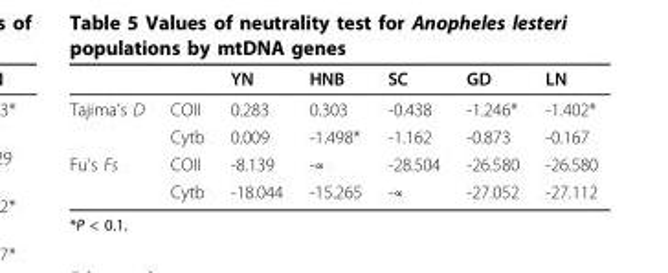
<table><thead><tr><td></td><td></td><td>YN</td><td>HNB</td><td>SC</td><td>GD</td><td>LN</td></tr></thead><tbody><tr><td rowspan="2">Tajima’s D</td><td>COII</td><td>0.283</td><td>0.303</td><td>-0.438</td><td>-1.246*</td><td>-1.402*</td></tr><tr><td>Cytb</td><td>0.009</td><td>-1.498*</td><td>-1.162</td><td>-0.873</td><td>-0.167</td></tr><tr><td rowspan="2">Fu’s Fs</td><td>COII</td><td>-8.139</td><td>-∝</td><td>-28.504</td><td>-26.580</td><td>-26.580</td></tr><tr><td>Cytb</td><td>-18.044</td><td>-15.265</td><td>-∝</td><td>-27.052</td><td>-27.112</td></tr></tbody></table>